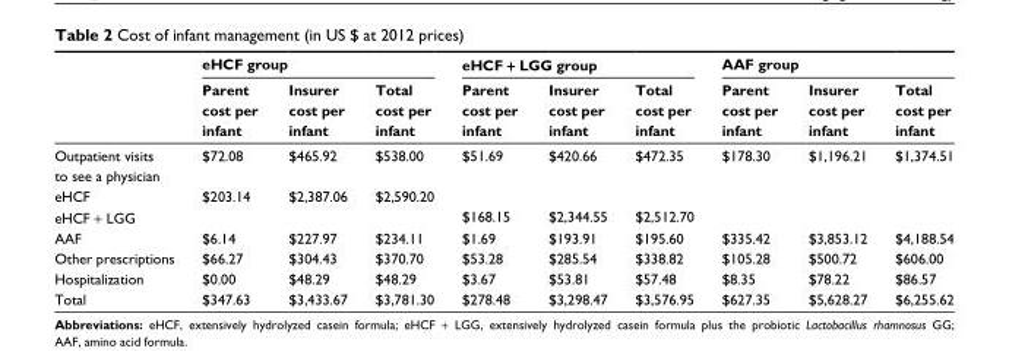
<table><thead><tr><td rowspan="2"></td><td colspan="3">eHCF group</td><td colspan="3">eHCF + LGG group</td><td colspan="3">AAF group</td></tr><tr><td>Parent cost per infant</td><td>Insurer cost per infant</td><td>Total cost per infant</td><td>Parent cost per infant</td><td>Insurer cost per infant</td><td>Total cost per infant</td><td>Parent cost per infant</td><td>Insurer cost per infant</td><td>Total cost per infant</td></tr></thead><tbody><tr><td>Outpatient visits to see a physician</td><td>$72.08</td><td>$465.92</td><td>$538.00</td><td>$51.69</td><td>$420.66</td><td>$472.35</td><td>$178.30</td><td>$1,196.21</td><td>$1,374.51</td></tr><tr><td>ehCF</td><td>$203.14</td><td>$2,387.06</td><td>$2,590.20</td><td></td><td></td><td></td><td></td><td></td><td></td></tr><tr><td>ehCF + lgg</td><td></td><td></td><td></td><td>$168.15</td><td>$2,344.55</td><td>$2,512.70</td><td></td><td></td><td></td></tr><tr><td>aaF</td><td>$6.14</td><td>$227.97</td><td>$234.11</td><td>$1.69</td><td>$193.91</td><td>$195.60</td><td>$335.42</td><td>$3,853.12</td><td>$4,188.54</td></tr><tr><td>Other prescriptions</td><td>$66.27</td><td>$304.43</td><td>$370.70</td><td>$53.28</td><td>$285.54</td><td>$338.82</td><td>$105.28</td><td>$500.72</td><td>$606.00</td></tr><tr><td>hospitalization</td><td>$0.00</td><td>$48.29</td><td>$48.29</td><td>$3.67</td><td>$53.81</td><td>$57.48</td><td>$8.35</td><td>$78.22</td><td>$86.57</td></tr><tr><td>Total</td><td>$347.63</td><td>$3,433.67</td><td>$3,781.30</td><td>$278.48</td><td>$3,298.47</td><td>$3,576.95</td><td>$627.35</td><td>$5,628.27</td><td>$6,255.62</td></tr></tbody></table>